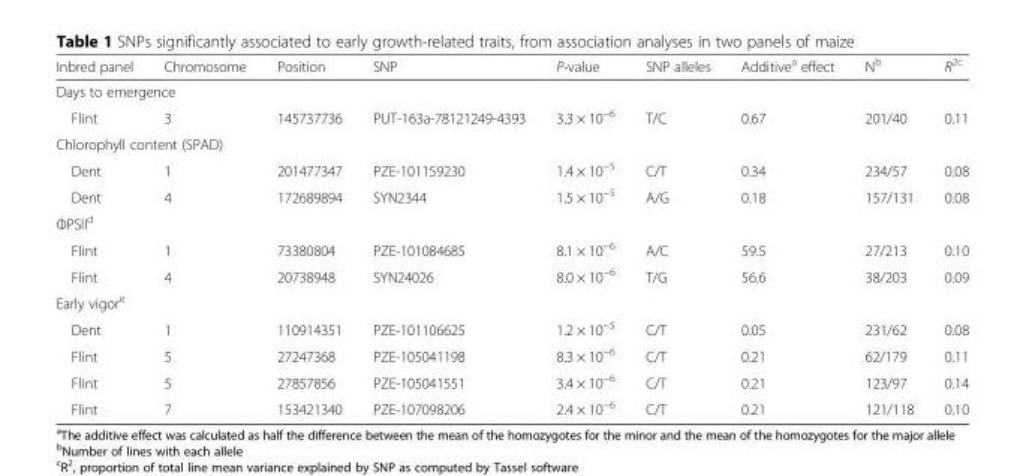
<table><thead><tr><td>Inbred panel</td><td>Chromosome</td><td>Position</td><td>SNP</td><td>P-value</td><td>SNP alleles</td><td>Additive<sup>a</sup> effect</td><td>N<sup>b</sup></td><td>R<sup>2c</sup></td></tr></thead><tbody><tr><td colspan="9">Days to emergence</td></tr><tr><td>Flint</td><td>3</td><td>145737736</td><td>PUT-163a-78121249-4393</td><td>3.3 × 10<sup>−6</sup></td><td>T/C</td><td>0.67</td><td>201/40</td><td>0.11</td></tr><tr><td colspan="9">Chlorophyll content (SPAD)</td></tr><tr><td>Dent</td><td>1</td><td>201477347</td><td>PZE-101159230</td><td>1.4 × 10<sup>−5</sup></td><td>C/T</td><td>0.34</td><td>234/57</td><td>0.08</td></tr><tr><td>Dent</td><td>4</td><td>172689894</td><td>SYN2344</td><td>1.5 × 10<sup>−5</sup></td><td>A/G</td><td>0.18</td><td>157/131</td><td>0.08</td></tr><tr><td colspan="9">ΦPSII<sup>d</sup></td></tr><tr><td>Flint</td><td>1</td><td>73380804</td><td>PZE-101084685</td><td>8.1 × 10<sup>−6</sup></td><td>A/C</td><td>59.5</td><td>27/213</td><td>0.10</td></tr><tr><td>Flint</td><td>4</td><td>20738948</td><td>SYN24026</td><td>8.0 × 10<sup>−6</sup></td><td>T/G</td><td>56.6</td><td>38/203</td><td>0.09</td></tr><tr><td colspan="9">Early vigor<sup>e</sup></td></tr><tr><td>Dent</td><td>1</td><td>110914351</td><td>PZE-101106625</td><td>1.2 × 10<sup>−5</sup></td><td>C/T</td><td>0.05</td><td>231/62</td><td>0.08</td></tr><tr><td>Flint</td><td>5</td><td>27247368</td><td>PZE-105041198</td><td>8.3 × 10<sup>−6</sup></td><td>C/T</td><td>0.21</td><td>62/179</td><td>0.11</td></tr><tr><td>Flint</td><td>5</td><td>27857856</td><td>PZE-105041551</td><td>3.4 × 10<sup>−6</sup></td><td>C/T</td><td>0.21</td><td>123/97</td><td>0.14</td></tr><tr><td>Flint</td><td>7</td><td>153421340</td><td>PZE-107098206</td><td>2.4 × 10<sup>−6</sup></td><td>C/T</td><td>0.21</td><td>121/118</td><td>0.10</td></tr></tbody></table>